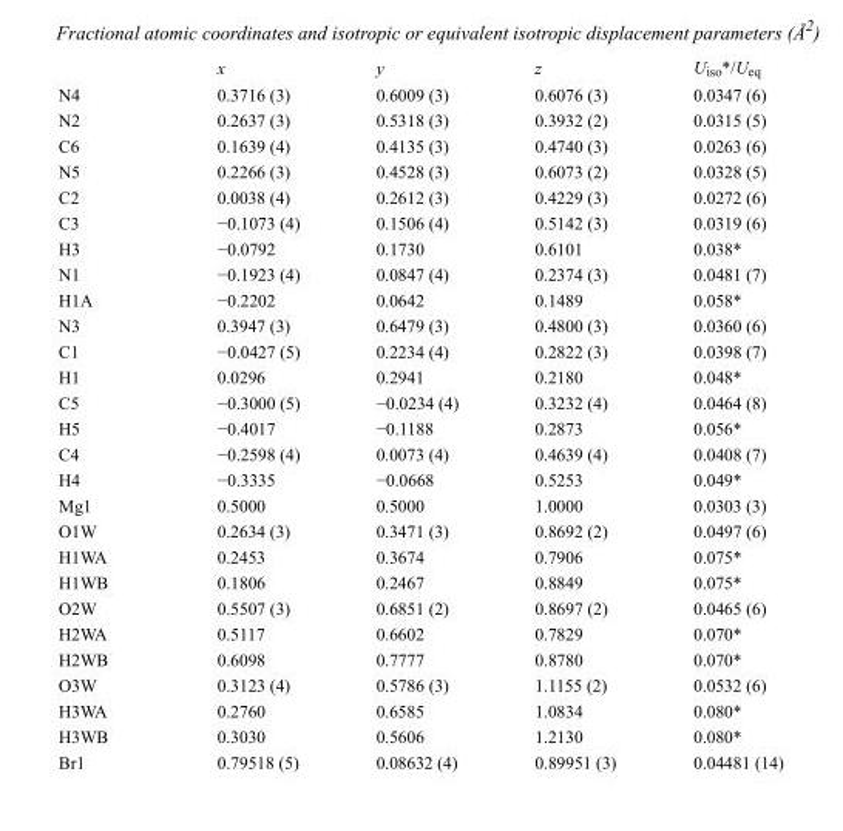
<table><thead><tr><td></td><td>x</td><td>y</td><td>z</td><td>U<sub>iso</sub>*/U<sub>eq</sub></td></tr></thead><tbody><tr><td>N4</td><td>0.3716 (3)</td><td>0.6009 (3)</td><td>0.6076 (3)</td><td>0.0347 (6)</td></tr><tr><td>N2</td><td>0.2637 (3)</td><td>0.5318 (3)</td><td>0.3932 (2)</td><td>0.0315 (5)</td></tr><tr><td>C6</td><td>0.1639 (4)</td><td>0.4135 (3)</td><td>0.4740 (3)</td><td>0.0263 (6)</td></tr><tr><td>N5</td><td>0.2266 (3)</td><td>0.4528 (3)</td><td>0.6073 (2)</td><td>0.0328 (5)</td></tr><tr><td>C2</td><td>0.0038 (4)</td><td>0.2612 (3)</td><td>0.4229 (3)</td><td>0.0272 (6)</td></tr><tr><td>C3</td><td>−0.1073 (4)</td><td>0.1506 (4)</td><td>0.5142 (3)</td><td>0.0319 (6)</td></tr><tr><td>H3</td><td>−0.0792</td><td>0.1730</td><td>0.6101</td><td>0.038*</td></tr><tr><td>N1</td><td>−0.1923 (4)</td><td>0.0847 (4)</td><td>0.2374 (3)</td><td>0.0481 (7)</td></tr><tr><td>H1A</td><td>−0.2202</td><td>0.0642</td><td>0.1489</td><td>0.058*</td></tr><tr><td>N3</td><td>0.3947 (3)</td><td>0.6479 (3)</td><td>0.4800 (3)</td><td>0.0360 (6)</td></tr><tr><td>C1</td><td>−0.0427 (5)</td><td>0.2234 (4)</td><td>0.2822 (3)</td><td>0.0398 (7)</td></tr><tr><td>H1</td><td>0.0296</td><td>0.2941</td><td>0.2180</td><td>0.048*</td></tr><tr><td>C5</td><td>−0.3000 (5)</td><td>−0.0234 (4)</td><td>0.3232 (4)</td><td>0.0464 (8)</td></tr><tr><td>H5</td><td>−0.4017</td><td>−0.1188</td><td>0.2873</td><td>0.056*</td></tr><tr><td>C4</td><td>−0.2598 (4)</td><td>0.0073 (4)</td><td>0.4639 (4)</td><td>0.0408 (7)</td></tr><tr><td>H4</td><td>−0.3335</td><td>−0.0668</td><td>0.5253</td><td>0.049*</td></tr><tr><td>Mg1</td><td>0.5000</td><td>0.5000</td><td>1.0000</td><td>0.0303 (3)</td></tr><tr><td>O1W</td><td>0.2634 (3)</td><td>0.3471 (3)</td><td>0.8692 (2)</td><td>0.0497 (6)</td></tr><tr><td>H1WA</td><td>0.2453</td><td>0.3674</td><td>0.7906</td><td>0.075*</td></tr><tr><td>H1WB</td><td>0.1806</td><td>0.2467</td><td>0.8849</td><td>0.075*</td></tr><tr><td>O2W</td><td>0.5507 (3)</td><td>0.6851 (2)</td><td>0.8697 (2)</td><td>0.0465 (6)</td></tr><tr><td>H2WA</td><td>0.5117</td><td>0.6602</td><td>0.7829</td><td>0.070*</td></tr><tr><td>H2WB</td><td>0.6098</td><td>0.7777</td><td>0.8780</td><td>0.070*</td></tr><tr><td>O3W</td><td>0.3123 (4)</td><td>0.5786 (3)</td><td>1.1155 (2)</td><td>0.0532 (6)</td></tr><tr><td>H3WA</td><td>0.2760</td><td>0.6585</td><td>1.0834</td><td>0.080*</td></tr><tr><td>H3WB</td><td>0.3030</td><td>0.5606</td><td>1.2130</td><td>0.080*</td></tr><tr><td>Br1</td><td>0.79518 (5)</td><td>0.08632 (4)</td><td>0.89951 (3)</td><td>0.04481 (14)</td></tr></tbody></table>